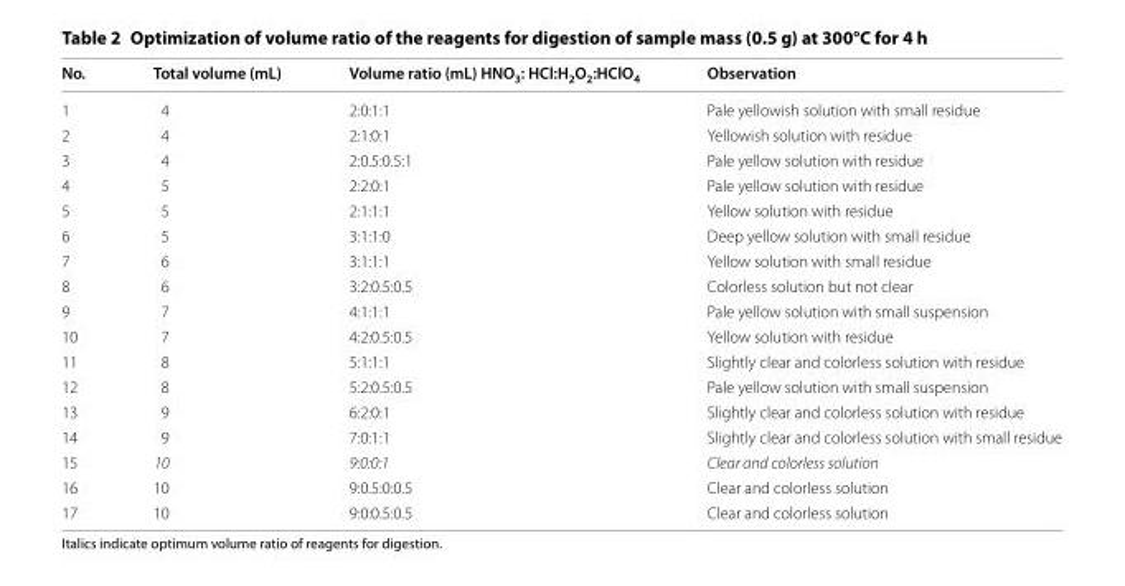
<table><thead><tr><td>No.</td><td>Total volume (mL)</td><td>Volume ratio (mL) HNO<sub>3</sub>: HCl:H<sub>2</sub>O<sub>2</sub>:HClO<sub>4</sub></td><td>Observation</td></tr></thead><tbody><tr><td>1</td><td>4</td><td>2:0:1:1</td><td>Pale yellowish solution with small residue</td></tr><tr><td>2</td><td>4</td><td>2:1:0:1</td><td>Yellowish solution with residue</td></tr><tr><td>3</td><td>4</td><td>2:0.5:0.5:1</td><td>Pale yellow solution with residue</td></tr><tr><td>4</td><td>5</td><td>2:2:0:1</td><td>Pale yellow solution with residue</td></tr><tr><td>5</td><td>5</td><td>2:1:1:1</td><td>Yellow solution with residue</td></tr><tr><td>6</td><td>5</td><td>3:1:1:0</td><td>Deep yellow solution with small residue</td></tr><tr><td>7</td><td>6</td><td>3:1:1:1</td><td>Yellow solution with small residue</td></tr><tr><td>8</td><td>6</td><td>3:2:0.5:0.5</td><td>Colorless solution but not clear</td></tr><tr><td>9</td><td>7</td><td>4:1:1:1</td><td>Pale yellow solution with small suspension</td></tr><tr><td>10</td><td>7</td><td>4:2:0.5:0.5</td><td>Yellow solution with residue</td></tr><tr><td>11</td><td>8</td><td>5:1:1:1</td><td>Slightly clear and colorless solution with residue</td></tr><tr><td>12</td><td>8</td><td>5:2:0.5:0.5</td><td>Pale yellow solution with small suspension</td></tr><tr><td>13</td><td>9</td><td>6:2:0:1</td><td>Slightly clear and colorless solution with residue</td></tr><tr><td>14</td><td>9</td><td>7:0:1:1</td><td>Slightly clear and colorless solution with small residue</td></tr><tr><td>15</td><td>10</td><td>9:0:0:1</td><td>Clear and colorless solution</td></tr><tr><td>16</td><td>10</td><td>9:0.5:0:0.5</td><td>Clear and colorless solution</td></tr><tr><td>17</td><td>10</td><td>9:0:0.5:0.5</td><td>Clear and colorless solution</td></tr></tbody></table>